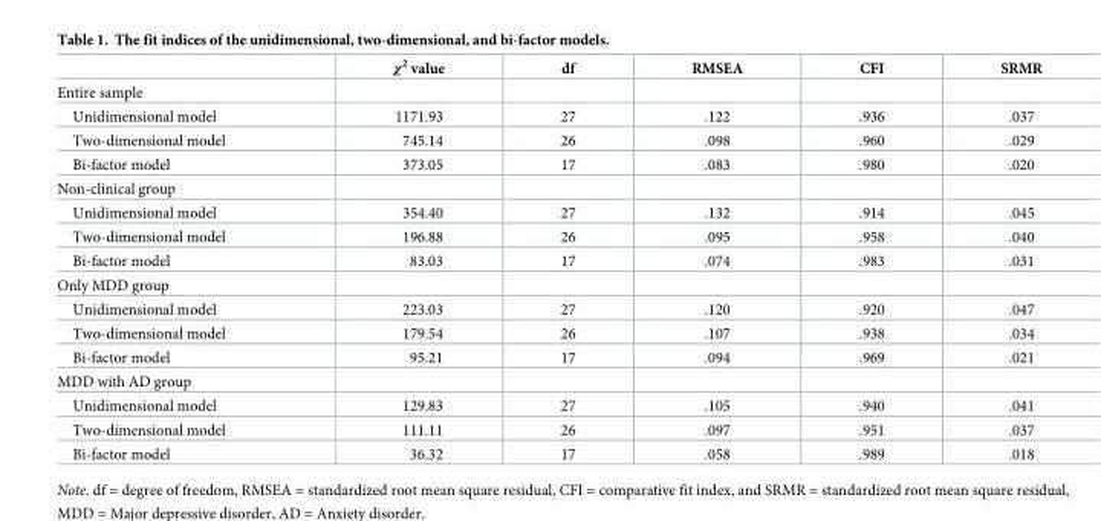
<table><thead><tr><td></td><td>χ<sup>2</sup> value</td><td>df</td><td>RMSEA</td><td>CFI</td><td>SRMR</td></tr></thead><tbody><tr><td colspan="6">Entire sample</td></tr><tr><td>Unidimensional model</td><td>1171.93</td><td>27</td><td>.122</td><td>.936</td><td>.037</td></tr><tr><td>Two-dimensional model</td><td>745.14</td><td>26</td><td>.098</td><td>.960</td><td>.029</td></tr><tr><td>Bi-factor model</td><td>373.05</td><td>17</td><td>.083</td><td>.980</td><td>.020</td></tr><tr><td colspan="6">Non-clinical group</td></tr><tr><td>Unidimensional model</td><td>354.40</td><td>27</td><td>.132</td><td>.914</td><td>.045</td></tr><tr><td>Two-dimensional model</td><td>196.88</td><td>26</td><td>.095</td><td>.958</td><td>.040</td></tr><tr><td>Bi-factor model</td><td>83.03</td><td>17</td><td>.074</td><td>.983</td><td>.031</td></tr><tr><td colspan="6">Only MDD group</td></tr><tr><td>Unidimensional model</td><td>223.03</td><td>27</td><td>.120</td><td>.920</td><td>.047</td></tr><tr><td>Two-dimensional model</td><td>179.54</td><td>26</td><td>.107</td><td>.938</td><td>.034</td></tr><tr><td>Bi-factor model</td><td>95.21</td><td>17</td><td>.094</td><td>.969</td><td>.021</td></tr><tr><td colspan="6">MDD with AD group</td></tr><tr><td>Unidimensional model</td><td>129.83</td><td>27</td><td>.105</td><td>.940</td><td>.041</td></tr><tr><td>Two-dimensional model</td><td>111.11</td><td>26</td><td>.097</td><td>.951</td><td>.037</td></tr><tr><td>Bi-factor model</td><td>36.32</td><td>17</td><td>.058</td><td>.989</td><td>.018</td></tr></tbody></table>